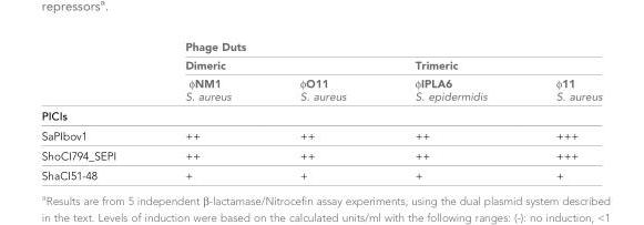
<table><thead><tr><td rowspan="3"></td><td colspan="4">Phage Duts</td></tr><tr><td colspan="2">Dimeric</td><td colspan="2">Trimeric</td></tr><tr><td>ϕNM1 S. aureus</td><td>ϕO11 S. aureus</td><td>ϕIPLA6 S. epidermidis</td><td>ϕ11 S. aureus</td></tr></thead><tbody><tr><td colspan="5">PICIs</td></tr><tr><td>SaPIbov1</td><td>++</td><td>++</td><td>++</td><td>+++</td></tr><tr><td>ShoCI794_SEPI</td><td>++</td><td>++</td><td>++</td><td>+++</td></tr><tr><td>ShaCI51-48</td><td>+</td><td>+</td><td>+</td><td>+</td></tr></tbody></table>